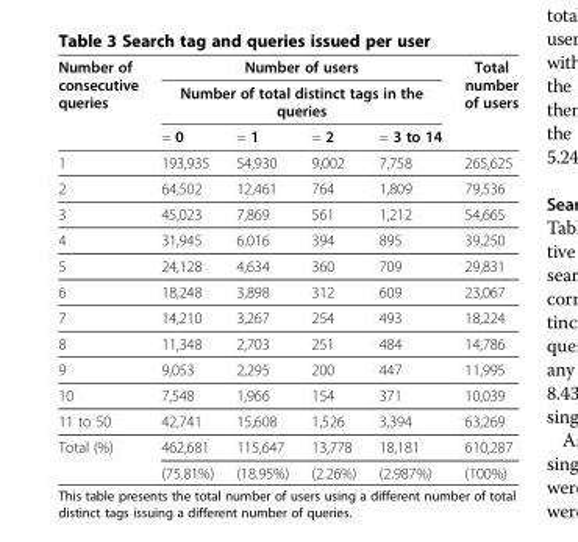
<table><thead><tr><td rowspan="3">Number of consecutive queries</td><td rowspan="2" colspan="4">Number of users Number of total distinct tags in the queries</td><td rowspan="3">Total number of users</td></tr><tr></tr><tr><td>= 0</td><td>= 1</td><td>= 2</td><td>= 3 to 14</td></tr></thead><tbody><tr><td>1</td><td>193,935</td><td>54,930</td><td>9,002</td><td>7,758</td><td>265,625</td></tr><tr><td>2</td><td>64,502</td><td>12,461</td><td>764</td><td>1,809</td><td>79,536</td></tr><tr><td>3</td><td>45,023</td><td>7,869</td><td>561</td><td>1,212</td><td>54,665</td></tr><tr><td>4</td><td>31,945</td><td>6,016</td><td>394</td><td>895</td><td>39,250</td></tr><tr><td>5</td><td>24,128</td><td>4,634</td><td>360</td><td>709</td><td>29,831</td></tr><tr><td>6</td><td>18,248</td><td>3,898</td><td>312</td><td>609</td><td>23,067</td></tr><tr><td>7</td><td>14,210</td><td>3,267</td><td>254</td><td>493</td><td>18,224</td></tr><tr><td>8</td><td>11,348</td><td>2,703</td><td>251</td><td>484</td><td>14,786</td></tr><tr><td>9</td><td>9,053</td><td>2,295</td><td>200</td><td>447</td><td>11,995</td></tr><tr><td>10</td><td>7,548</td><td>1,966</td><td>154</td><td>371</td><td>10,039</td></tr><tr><td>11 to 50</td><td>42,741</td><td>15,608</td><td>1,526</td><td>3,394</td><td>63,269</td></tr><tr><td rowspan="2">Total (%)</td><td>462,681</td><td>115,647</td><td>13,778</td><td>18,181</td><td>610,287</td></tr><tr><td>(75.81%)</td><td>(18.95%)</td><td>(2.26%)</td><td>(2.987%)</td><td>(100%)</td></tr></tbody></table>